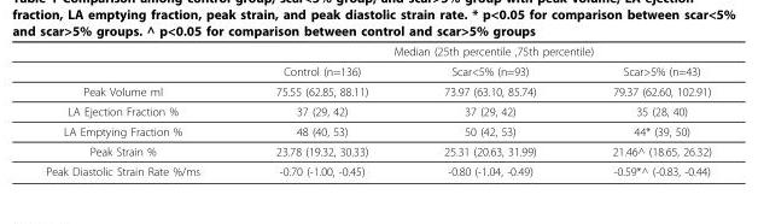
<table><thead><tr><td rowspan="2"></td><td colspan="3">Median (25th percentile ,75th percentile)</td></tr><tr><td>Control (n=136)</td><td>Scar&lt;5% (n=93)</td><td>Scar&gt;5% (n=43)</td></tr></thead><tbody><tr><td>Peak Volume ml</td><td>75.55 (62.85, 88.11)</td><td>73.97 (63.10, 85.74)</td><td>79.37 (62.60, 102.91)</td></tr><tr><td>LA Ejection Fraction %</td><td>37 (29, 42)</td><td>37 (29, 42)</td><td>35 (28, 40)</td></tr><tr><td>LA Emptying Fraction %</td><td>48 (40, 53)</td><td>50 (42, 53)</td><td>44* (39, 50)</td></tr><tr><td>Peak Strain %</td><td>23.78 (19.32, 30.33)</td><td>25.31 (20.63, 31.99)</td><td>21.46^ (18.65, 26.32)</td></tr><tr><td>Peak Diastolic Strain Rate %/ms</td><td>-0.70 (-1.00, -0.45)</td><td>-0.80 (-1.04, -0.49)</td><td>-0.59*^ (-0.83, -0.44)</td></tr></tbody></table>